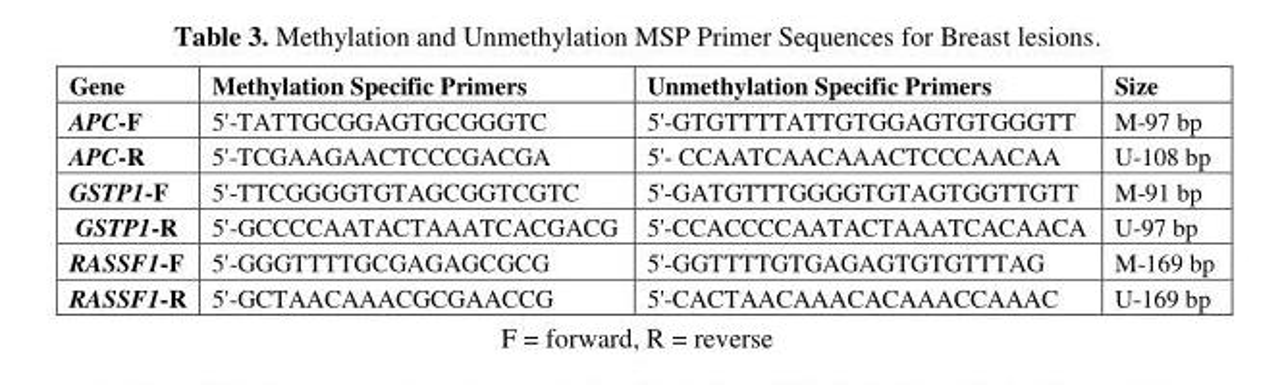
<table><thead><tr><td>Gene</td><td>Methylation Specific Primers</td><td>Unmethylation Specific Primers</td><td>Size</td></tr></thead><tbody><tr><td>APC-F</td><td>5&#x27;-TATTGCGGAGTGCGGGTC</td><td>5&#x27;-GTGTTTTATTGTGGAGTGTGGGTT</td><td>M-97 bp</td></tr><tr><td>APC-R</td><td>5&#x27;-TCGAAGAACTCCCGACGA</td><td>5&#x27;- CCAATCAACAAACTCCCAACAA</td><td>U-108 bp</td></tr><tr><td>GSTP1-F</td><td>5&#x27;-TTCGGGGTGTAGCGGTCGTC</td><td>5&#x27;-GATGTTTGGGGTGTAGTGGTTGTT</td><td>M-91 bp</td></tr><tr><td>GSTP1-R</td><td>5&#x27;-GCCCCAATACTAAATCACGACG</td><td>5&#x27;-CCACCCCAATACTAAATCACAACA</td><td>U-97 bp</td></tr><tr><td>RASSF1-F</td><td>5&#x27;-GGGTTTTGCGAGAGCGCG</td><td>5&#x27;-GGTTTTGTGAGAGTGTGTTTAG</td><td>M-169 bp</td></tr><tr><td>RASSF1-R</td><td>5&#x27;-GCTAACAAACGCGAACCG</td><td>5&#x27;-CACTAACAAACACAAACCAAAC</td><td>U-169 bp</td></tr></tbody></table>